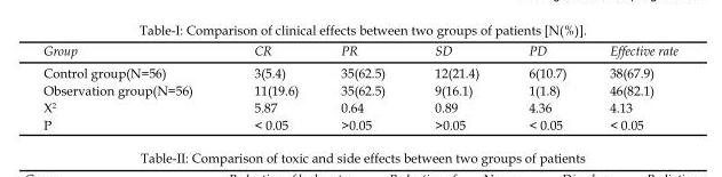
<table><thead><tr><td>Group</td><td>CR</td><td>PR</td><td>SD</td><td>PD</td><td>Effective rate</td></tr></thead><tbody><tr><td>Control group(N=56)</td><td>3(5.4)</td><td>35(62.5)</td><td>12(21.4)</td><td>6(10.7)</td><td>38(67.9)</td></tr><tr><td>Observation group(N=56)</td><td>11(19.6)</td><td>35(62.5)</td><td>9(16.1)</td><td>1(1.8)</td><td>46(82.1)</td></tr><tr><td>X<sup>2</sup></td><td>5.87</td><td>0.64</td><td>0.89</td><td>4.36</td><td>4.13</td></tr><tr><td>P</td><td>&lt; 0.05</td><td>&gt;0.05</td><td>&gt;0.05</td><td>&lt; 0.05</td><td>&lt; 0.05</td></tr></tbody></table>